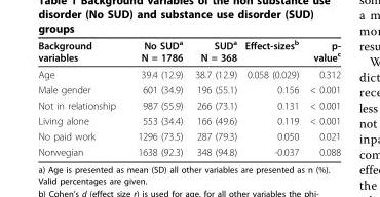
<table><thead><tr><td>Background variables</td><td>No SUD<sup>a</sup> N = 1786</td><td>SUD<sup>a</sup> N = 368</td><td>Effect-sizes<sup>b</sup></td><td>p- value<sup>c</sup></td></tr></thead><tbody><tr><td>Age</td><td>39.4 (12.9)</td><td>38.7 (12.9)</td><td>0.058 (0.029)</td><td>0.312</td></tr><tr><td>Male gender</td><td>601 (34.9)</td><td>196 (55.1)</td><td>0.156</td><td>&lt; 0.001</td></tr><tr><td>Not in relationship</td><td>987 (55.9)</td><td>266 (73.1)</td><td>0.131</td><td>&lt; 0.001</td></tr><tr><td>Living alone</td><td>553 (34.4)</td><td>166 (49.6)</td><td>0.119</td><td>&lt; 0.001</td></tr><tr><td>No paid work</td><td>1296 (73.5)</td><td>287 (79.3)</td><td>0.050</td><td>0.021</td></tr><tr><td>Norwegian</td><td>1638 (92.3)</td><td>348 (94.8)</td><td>-0.037</td><td>0.088</td></tr></tbody></table>